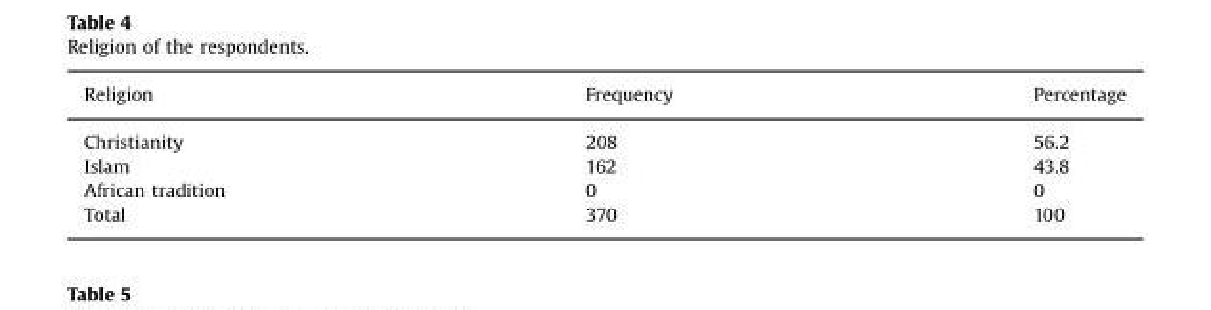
<table><thead><tr><td>Religion</td><td>Frequency</td><td>Percentage</td></tr></thead><tbody><tr><td>Christianity</td><td>208</td><td>56.2</td></tr><tr><td>Islam</td><td>162</td><td>43.8</td></tr><tr><td>African tradition</td><td>0</td><td>0</td></tr><tr><td>Total</td><td>370</td><td>100</td></tr></tbody></table>